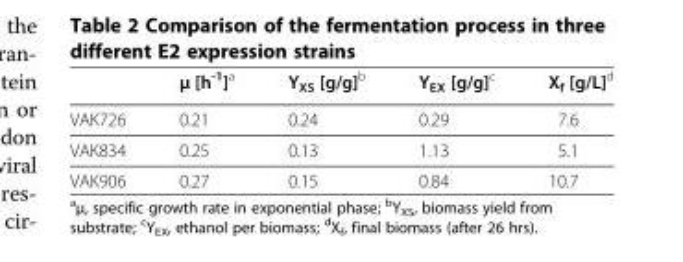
<table><thead><tr><td></td><td>μ [h<sup>-1</sup>]<sup>a</sup></td><td>Y<sub>XS</sub> [g/g]<sup>b</sup></td><td>Y<sub>EX</sub> [g/g]<sup>c</sup></td><td>X<sub>f</sub> [g/L]<sup>d</sup></td></tr></thead><tbody><tr><td>VAK726</td><td>0.21</td><td>0.24</td><td>0.29</td><td>7.6</td></tr><tr><td>VAK834</td><td>0.25</td><td>0.13</td><td>1.13</td><td>5.1</td></tr><tr><td>VAK906</td><td>0.27</td><td>0.15</td><td>0.84</td><td>10.7</td></tr></tbody></table>